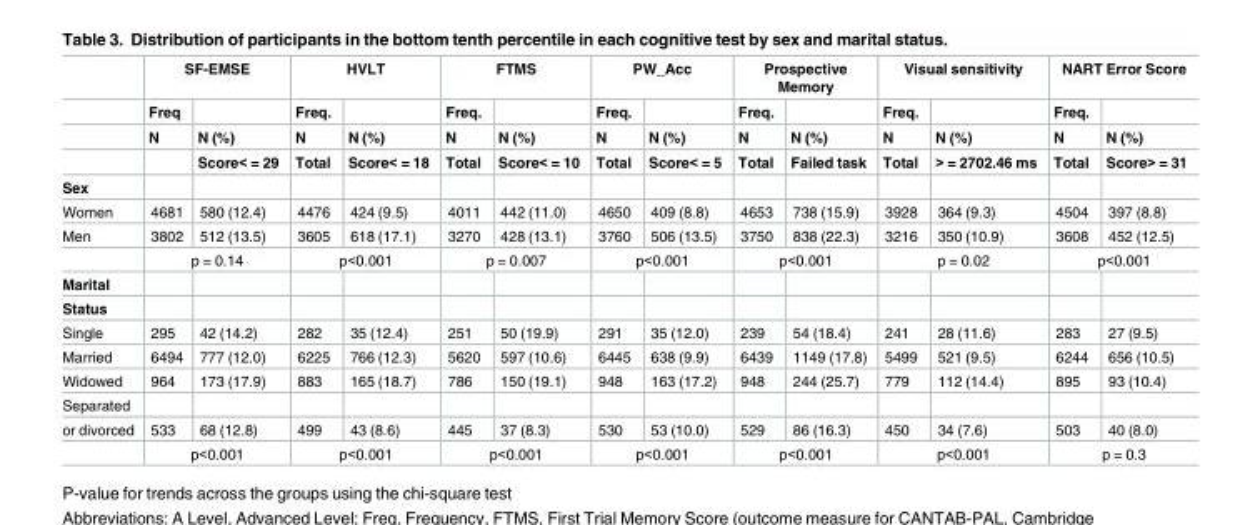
<table><thead><tr><td rowspan="4"></td><td colspan="2">SF-EMSE</td><td colspan="2">HVLT</td><td colspan="2">FTMS</td><td colspan="2">PW_Acc</td><td colspan="2">Prospective Memory</td><td colspan="2">Visual sensitivity</td><td colspan="2">NART Error Score</td></tr><tr><td rowspan="3">Freq N</td><td rowspan="3">N (%) Score&lt; = 29</td><td rowspan="3">Freq. N Total</td><td rowspan="3">N (%) Score&lt; = 18</td><td rowspan="3">Freq. N Total</td><td rowspan="3">N (%) Score&lt; = 10</td><td rowspan="3">Freq. N Total</td><td rowspan="3">N (%) Score&lt; = 5</td><td rowspan="3">Freq. N Total</td><td rowspan="3">N (%) Failed task</td><td rowspan="3">Freq. N Total</td><td rowspan="3">N (%) &gt; = 2702.46 ms</td><td rowspan="3">Freq. N Total</td><td rowspan="3">N (%) Score&gt; = 31</td></tr><tr></tr><tr></tr></thead><tbody><tr><td colspan="15">Sex</td></tr><tr><td>Women</td><td>4681</td><td>580 (12.4)</td><td>4476</td><td>424 (9.5)</td><td>4011</td><td>442 (11.0)</td><td>4650</td><td>409 (8.8)</td><td>4653</td><td>738 (15.9)</td><td>3928</td><td>364 (9.3)</td><td>4504</td><td>397 (8.8)</td></tr><tr><td rowspan="2">Men</td><td>3802</td><td>512 (13.5)</td><td>3605</td><td>618 (17.1)</td><td>3270</td><td>428 (13.1)</td><td>3760</td><td>506 (13.5)</td><td>3750</td><td>838 (22.3)</td><td>3216</td><td>350 (10.9)</td><td>3608</td><td>452 (12.5)</td></tr><tr><td colspan="2">p = 0.14</td><td colspan="2">p&lt;0.001</td><td colspan="2">p = 0.007</td><td colspan="2">p&lt;0.001</td><td colspan="2">p&lt;0.001</td><td colspan="2">p = 0.02</td><td colspan="2">p&lt;0.001</td></tr><tr><td colspan="15">Marital</td></tr><tr><td colspan="15">Status</td></tr><tr><td>Single</td><td>295</td><td>42 (14.2)</td><td>282</td><td>35 (12.4)</td><td>251</td><td>50 (19.9)</td><td>291</td><td>35 (12.0)</td><td>239</td><td>54 (18.4)</td><td>241</td><td>28 (11.6)</td><td>283</td><td>27 (9.5)</td></tr><tr><td>Married</td><td>6494</td><td>777 (12.0)</td><td>6225</td><td>766 (12.3)</td><td>5620</td><td>597 (10.6)</td><td>6445</td><td>638 (9.9)</td><td>6439</td><td>1149 (17.8)</td><td>5499</td><td>521 (9.5)</td><td>6244</td><td>656 (10.5)</td></tr><tr><td>Widowed</td><td>964</td><td>173 (17.9)</td><td>883</td><td>165 (18.7)</td><td>786</td><td>150 (19.1)</td><td>948</td><td>163 (17.2)</td><td>948</td><td>244 (25.7)</td><td>779</td><td>112 (14.4)</td><td>895</td><td>93 (10.4)</td></tr><tr><td colspan="15">Separated</td></tr><tr><td rowspan="2">or divorced</td><td>533</td><td>68 (12.8)</td><td>499</td><td>43 (8.6)</td><td>445</td><td>37 (8.3)</td><td>530</td><td>53 (10.0)</td><td>529</td><td>86 (16.3)</td><td>450</td><td>34 (7.6)</td><td>503</td><td>40 (8.0)</td></tr><tr><td colspan="2">p&lt;0.001</td><td colspan="2">p&lt;0.001</td><td colspan="2">p&lt;0.001</td><td colspan="2">p&lt;0.001</td><td colspan="2">p&lt;0.001</td><td colspan="2">p&lt;0.001</td><td colspan="2">p = 0.3</td></tr></tbody></table>